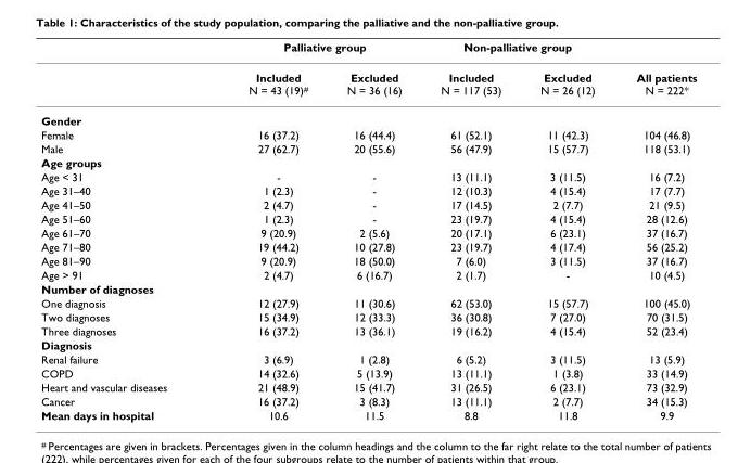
<table><thead><tr><td rowspan="2"></td><td colspan="2">Palliative group</td><td colspan="2">Non-palliative group</td><td rowspan="2">All patients N = 222*</td></tr><tr><td>Included N = 43 (19)<sup>#</sup></td><td>Excluded N = 36 (16)</td><td>Included N = 117 (53)</td><td>Excluded N = 26 (12)</td></tr></thead><tbody><tr><td colspan="6">Gender</td></tr><tr><td>Female</td><td>16 (37.2)</td><td>16 (44.4)</td><td>61 (52.1)</td><td>11 (42.3)</td><td>104 (46.8)</td></tr><tr><td>Male</td><td>27 (62.7)</td><td>20 (55.6)</td><td>56 (47.9)</td><td>15 (57.7)</td><td>118 (53.1)</td></tr><tr><td colspan="6">Age groups</td></tr><tr><td>Age &lt; 31</td><td>-</td><td>-</td><td>13 (11.1)</td><td>3 (11.5)</td><td>16 (7.2)</td></tr><tr><td>Age 31–40</td><td>1 (2.3)</td><td>-</td><td>12 (10.3)</td><td>4 (15.4)</td><td>17 (7.7)</td></tr><tr><td>Age 41–50</td><td>2 (4.7)</td><td>-</td><td>17 (14.5)</td><td>2 (7.7)</td><td>21 (9.5)</td></tr><tr><td>Age 51–60</td><td>1 (2.3)</td><td>-</td><td>23 (19.7)</td><td>4 (15.4)</td><td>28 (12.6)</td></tr><tr><td>Age 61–70</td><td>9 (20.9)</td><td>2 (5.6)</td><td>20 (17.1)</td><td>6 (23.1)</td><td>37 (16.7)</td></tr><tr><td>Age 71–80</td><td>19 (44.2)</td><td>10 (27.8)</td><td>23 (19.7)</td><td>4 (17.4)</td><td>56 (25.2)</td></tr><tr><td>Age 81–90</td><td>9 (20.9)</td><td>18 (50.0)</td><td>7 (6.0)</td><td>3 (11.5)</td><td>37 (16.7)</td></tr><tr><td>Age &gt; 91</td><td>2 (4.7)</td><td>6 (16.7)</td><td>2 (1.7)</td><td>-</td><td>10 (4.5)</td></tr><tr><td colspan="6">Number of diagnoses</td></tr><tr><td>One diagnosis</td><td>12 (27.9)</td><td>11 (30.6)</td><td>62 (53.0)</td><td>15 (57.7)</td><td>100 (45.0)</td></tr><tr><td>Two diagnoses</td><td>15 (34.9)</td><td>12 (33.3)</td><td>36 (30.8)</td><td>7 (27.0)</td><td>70 (31.5)</td></tr><tr><td>Three diagnoses</td><td>16 (37.2)</td><td>13 (36.1)</td><td>19 (16.2)</td><td>4 (15.4)</td><td>52 (23.4)</td></tr><tr><td colspan="6">Diagnosis</td></tr><tr><td>Renal failure</td><td>3 (6.9)</td><td>1 (2.8)</td><td>6 (5.2)</td><td>3 (11.5)</td><td>13 (5.9)</td></tr><tr><td>COPD</td><td>14 (32.6)</td><td>5 (13.9)</td><td>13 (11.1)</td><td>1 (3.8)</td><td>33 (14.9)</td></tr><tr><td>Heart and vascular diseases</td><td>21 (48.9)</td><td>15 (41.7)</td><td>31 (26.5)</td><td>6 (23.1)</td><td>73 (32.9)</td></tr><tr><td>Cancer</td><td>16 (37.2)</td><td>3 (8.3)</td><td>13 (11.1)</td><td>2 (7.7)</td><td>34 (15.3)</td></tr><tr><td>Mean days in hospital</td><td>10.6</td><td>11.5</td><td>8.8</td><td>11.8</td><td>9.9</td></tr></tbody></table>